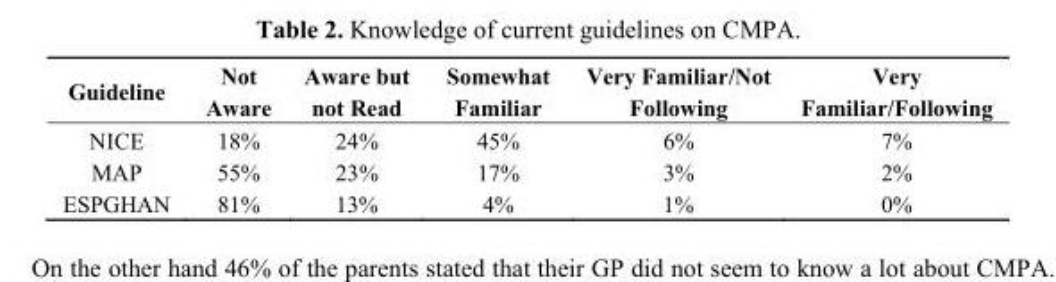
<table><thead><tr><td>Guideline</td><td>Not Aware</td><td>Aware but not Read</td><td>Somewhat Familiar</td><td>Very Familiar/Not Following</td><td>Very Familiar/Following</td></tr></thead><tbody><tr><td>NICE</td><td>18%</td><td>24%</td><td>45%</td><td>6%</td><td>7%</td></tr><tr><td>MAP</td><td>55%</td><td>23%</td><td>17%</td><td>3%</td><td>2%</td></tr><tr><td>ESPGHAN</td><td>81%</td><td>13%</td><td>4%</td><td>1%</td><td>0%</td></tr></tbody></table>